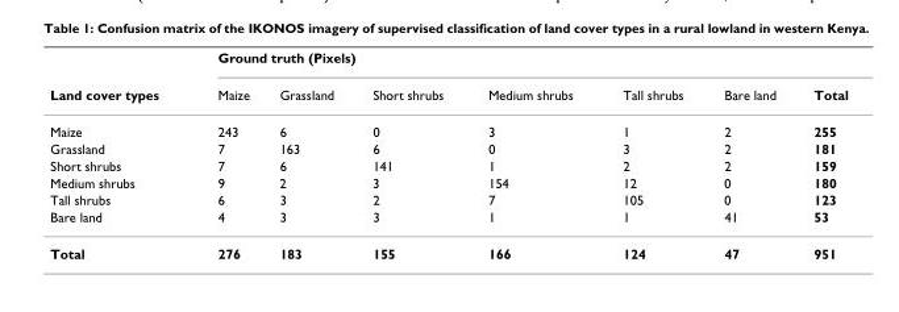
<table><thead><tr><td rowspan="2">Land cover types</td><td colspan="7">Ground truth (Pixels)</td></tr><tr><td>Maize</td><td>Grassland</td><td>Short shrubs</td><td>Medium shrubs</td><td>Tall shrubs</td><td>Bare land</td><td>Total</td></tr></thead><tbody><tr><td>Maize</td><td>243</td><td>6</td><td>0</td><td>3</td><td>1</td><td>2</td><td>255</td></tr><tr><td>Grassland</td><td>7</td><td>163</td><td>6</td><td>0</td><td>3</td><td>2</td><td>181</td></tr><tr><td>Short shrubs</td><td>7</td><td>6</td><td>141</td><td>1</td><td>2</td><td>2</td><td>159</td></tr><tr><td>Medium shrubs</td><td>9</td><td>2</td><td>3</td><td>154</td><td>12</td><td>0</td><td>180</td></tr><tr><td>Tall shrubs</td><td>6</td><td>3</td><td>2</td><td>7</td><td>105</td><td>0</td><td>123</td></tr><tr><td>Bare land</td><td>4</td><td>3</td><td>3</td><td>1</td><td>1</td><td>41</td><td>53</td></tr><tr><td>Total</td><td>276</td><td>183</td><td>155</td><td>166</td><td>124</td><td>47</td><td>951</td></tr></tbody></table>